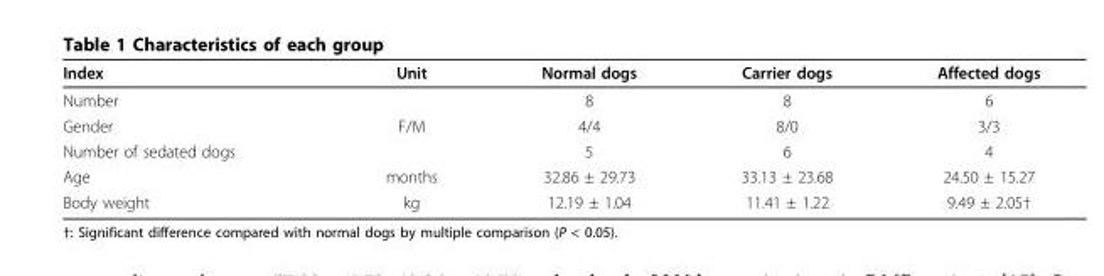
<table><thead><tr><td>Index</td><td>Unit</td><td>Normal dogs</td><td>Carrier dogs</td><td>Affected dogs</td></tr></thead><tbody><tr><td>Number</td><td></td><td>8</td><td>8</td><td>6</td></tr><tr><td>Gender</td><td>F/M</td><td>4/4</td><td>8/0</td><td>3/3</td></tr><tr><td>Number of sedated dogs</td><td></td><td>5</td><td>6</td><td>4</td></tr><tr><td>Age</td><td>months</td><td>32.86 ± 29.73</td><td>33.13 ± 23.68</td><td>24.50 ± 15.27</td></tr><tr><td>Body weight</td><td>kg</td><td>12.19 ± 1.04</td><td>11.41 ± 1.22</td><td>9.49 ± 2.05†</td></tr></tbody></table>